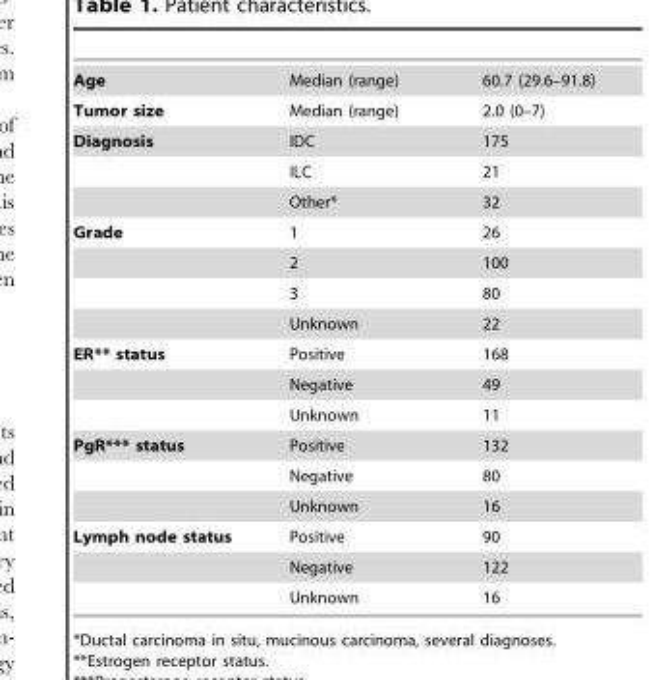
<table><tbody><tr><td>Age</td><td>Median (range)</td><td>60.7 (29.6–91.8)</td></tr><tr><td>Tumor size</td><td>Median (range)</td><td>2.0 (0–7)</td></tr><tr><td rowspan="3">Diagnosis</td><td>IDC</td><td>175</td></tr><tr><td>ILC</td><td>21</td></tr><tr><td>Other*</td><td>32</td></tr><tr><td rowspan="4">Grade</td><td>1</td><td>26</td></tr><tr><td>2</td><td>100</td></tr><tr><td>3</td><td>80</td></tr><tr><td>Unknown</td><td>22</td></tr><tr><td rowspan="3">ER** status</td><td>Positive</td><td>168</td></tr><tr><td>Negative</td><td>49</td></tr><tr><td>Unknown</td><td>11</td></tr><tr><td rowspan="3">PgR*** status</td><td>Positive</td><td>132</td></tr><tr><td>Negative</td><td>80</td></tr><tr><td>Unknown</td><td>16</td></tr><tr><td rowspan="3">Lymph node status</td><td>Positive</td><td>90</td></tr><tr><td>Negative</td><td>122</td></tr><tr><td>Unknown</td><td>16</td></tr></tbody></table>